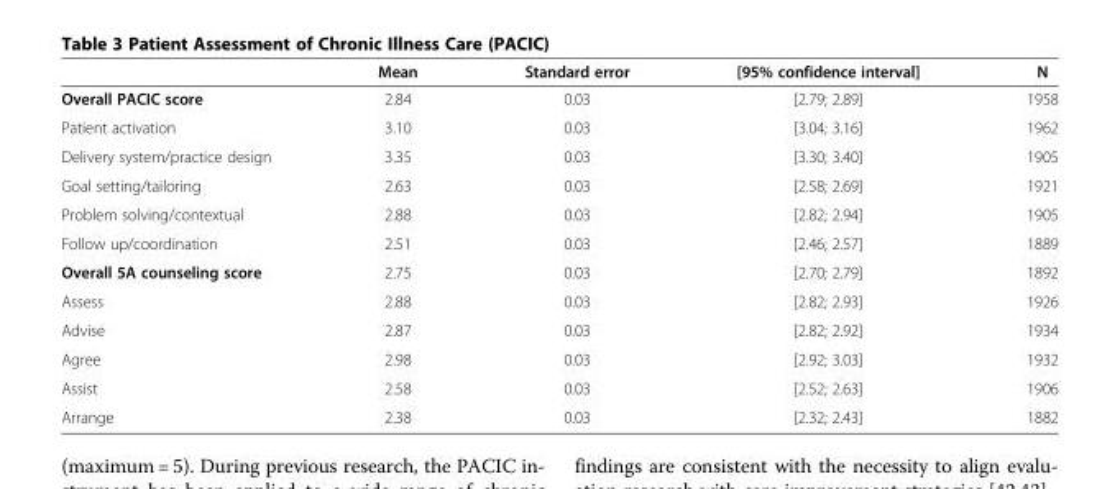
<table><thead><tr><td></td><td>Mean</td><td>Standard error</td><td>[95% confidence interval]</td><td>N</td></tr></thead><tbody><tr><td>Overall PACIC score</td><td>2.84</td><td>0.03</td><td>[2.79; 2.89]</td><td>1958</td></tr><tr><td>Patient activation</td><td>3.10</td><td>0.03</td><td>[3.04; 3.16]</td><td>1962</td></tr><tr><td>Delivery system/practice design</td><td>3.35</td><td>0.03</td><td>[3.30; 3.40]</td><td>1905</td></tr><tr><td>Goal setting/tailoring</td><td>2.63</td><td>0.03</td><td>[2.58; 2.69]</td><td>1921</td></tr><tr><td>Problem solving/contextual</td><td>2.88</td><td>0.03</td><td>[2.82; 2.94]</td><td>1905</td></tr><tr><td>Follow up/coordination</td><td>2.51</td><td>0.03</td><td>[2.46; 2.57]</td><td>1889</td></tr><tr><td>Overall 5A counseling score</td><td>2.75</td><td>0.03</td><td>[2.70; 2.79]</td><td>1892</td></tr><tr><td>Assess</td><td>2.88</td><td>0.03</td><td>[2.82; 2.93]</td><td>1926</td></tr><tr><td>Advise</td><td>2.87</td><td>0.03</td><td>[2.82; 2.92]</td><td>1934</td></tr><tr><td>Agree</td><td>2.98</td><td>0.03</td><td>[2.92; 3.03]</td><td>1932</td></tr><tr><td>Assist</td><td>2.58</td><td>0.03</td><td>[2.52; 2.63]</td><td>1906</td></tr><tr><td>Arrange</td><td>2.38</td><td>0.03</td><td>[2.32; 2.43]</td><td>1882</td></tr></tbody></table>